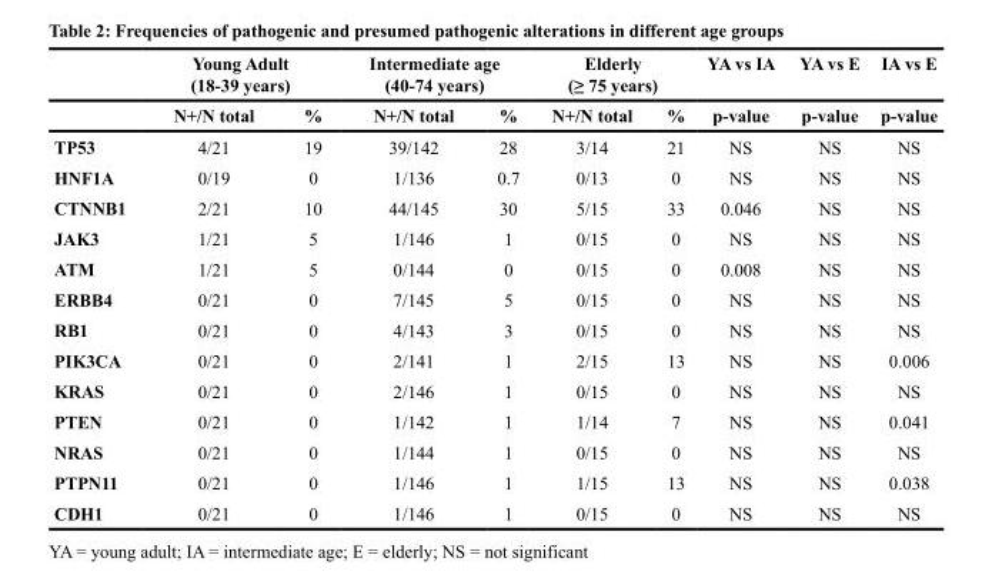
<table><thead><tr><td rowspan="2"></td><td colspan="2">Young Adult (18-39 years)</td><td colspan="2">Intermediate age (40-74 years)</td><td colspan="2">Elderly (≥ 75 years)</td><td rowspan="2">YA vs IA p-value</td><td rowspan="2">YA vs E p-value</td><td rowspan="2">IA vs E p-value</td></tr><tr><td>N+/N total</td><td>%</td><td>N+/N total</td><td>%</td><td>N+/N total</td><td>%</td></tr></thead><tbody><tr><td>TP53</td><td>4/21</td><td>19</td><td>39/142</td><td>28</td><td>3/14</td><td>21</td><td>NS</td><td>NS</td><td>NS</td></tr><tr><td>HNF1A</td><td>0/19</td><td>0</td><td>1/136</td><td>0.7</td><td>0/13</td><td>0</td><td>NS</td><td>NS</td><td>NS</td></tr><tr><td>CTNNB1</td><td>2/21</td><td>10</td><td>44/145</td><td>30</td><td>5/15</td><td>33</td><td>0.046</td><td>NS</td><td>NS</td></tr><tr><td>JAK3</td><td>1/21</td><td>5</td><td>1/146</td><td>1</td><td>0/15</td><td>0</td><td>NS</td><td>NS</td><td>NS</td></tr><tr><td>ATM</td><td>1/21</td><td>5</td><td>0/144</td><td>0</td><td>0/15</td><td>0</td><td>0.008</td><td>NS</td><td>NS</td></tr><tr><td>ERBB4</td><td>0/21</td><td>0</td><td>7/145</td><td>5</td><td>0/15</td><td>0</td><td>NS</td><td>NS</td><td>NS</td></tr><tr><td>RB1</td><td>0/21</td><td>0</td><td>4/143</td><td>3</td><td>0/15</td><td>0</td><td>NS</td><td>NS</td><td>NS</td></tr><tr><td>PIK3CA</td><td>0/21</td><td>0</td><td>2/141</td><td>1</td><td>2/15</td><td>13</td><td>NS</td><td>NS</td><td>0.006</td></tr><tr><td>KRAS</td><td>0/21</td><td>0</td><td>2/146</td><td>1</td><td>0/15</td><td>0</td><td>NS</td><td>NS</td><td>NS</td></tr><tr><td>PTEN</td><td>0/21</td><td>0</td><td>1/142</td><td>1</td><td>1/14</td><td>7</td><td>NS</td><td>NS</td><td>0.041</td></tr><tr><td>NRAS</td><td>0/21</td><td>0</td><td>1/144</td><td>1</td><td>0/15</td><td>0</td><td>NS</td><td>NS</td><td>NS</td></tr><tr><td>PTPN11</td><td>0/21</td><td>0</td><td>1/146</td><td>1</td><td>1/15</td><td>13</td><td>NS</td><td>NS</td><td>0.038</td></tr><tr><td>CDH1</td><td>0/21</td><td>0</td><td>1/146</td><td>1</td><td>0/15</td><td>0</td><td>NS</td><td>NS</td><td>NS</td></tr></tbody></table>